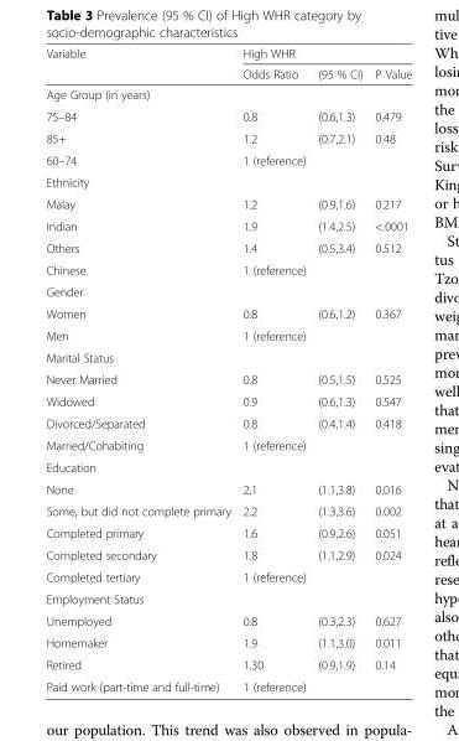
<table><thead><tr><td rowspan="2">Variable</td><td colspan="3">High WHR</td></tr><tr><td>Odds Ratio</td><td>(95 % CI)</td><td>P Value</td></tr></thead><tbody><tr><td colspan="4">Age Group (in years)</td></tr><tr><td>75–84</td><td>0.8</td><td>(0.6,1.3)</td><td>0.479</td></tr><tr><td>85+</td><td>1.2</td><td>(0.7,2.1)</td><td>0.48</td></tr><tr><td>60–74</td><td>1 (reference)</td><td></td><td></td></tr><tr><td colspan="4">Ethnicity</td></tr><tr><td>Malay</td><td>1.2</td><td>(0.9,1.6)</td><td>0.217</td></tr><tr><td>Indian</td><td>1.9</td><td>(1.4,2.5)</td><td>&lt;.0001</td></tr><tr><td>Others</td><td>1.4</td><td>(0.5,3.4)</td><td>0.512</td></tr><tr><td>Chinese</td><td>1 (reference)</td><td></td><td></td></tr><tr><td colspan="4">Gender</td></tr><tr><td>Women</td><td>0.8</td><td>(0.6,1.2)</td><td>0.367</td></tr><tr><td>Men</td><td>1 (reference)</td><td></td><td></td></tr><tr><td colspan="4">Marital Status</td></tr><tr><td>Never Married</td><td>0.8</td><td>(0.5,1.5)</td><td>0.525</td></tr><tr><td>Widowed</td><td>0.9</td><td>(0.6,1.3)</td><td>0.547</td></tr><tr><td>Divorced/Separated</td><td>0.8</td><td>(0.4,1.4)</td><td>0.418</td></tr><tr><td>Married/Cohabiting</td><td>1 (reference)</td><td></td><td></td></tr><tr><td colspan="4">Education</td></tr><tr><td>None</td><td>2.1</td><td>(1.1,3.8)</td><td>0.016</td></tr><tr><td>Some, but did not complete primary</td><td>2.2</td><td>(1.3,3.6)</td><td>0.002</td></tr><tr><td>Completed primary</td><td>1.6</td><td>(0.9,2.6)</td><td>0.051</td></tr><tr><td>Completed secondary</td><td>1.8</td><td>(1.1,2.9)</td><td>0.024</td></tr><tr><td>Completed tertiary</td><td>1 (reference)</td><td></td><td></td></tr><tr><td colspan="4">Employment Status</td></tr><tr><td>Unemployed</td><td>0.8</td><td>(0.3,2.3)</td><td>0.627</td></tr><tr><td>Homemaker</td><td>1.9</td><td>(1.1,3.0)</td><td>0.011</td></tr><tr><td>Retired</td><td>1.30</td><td>(0.9,1.9)</td><td>0.14</td></tr><tr><td>Paid work (part-time and full-time)</td><td>1 (reference)</td><td></td><td></td></tr></tbody></table>